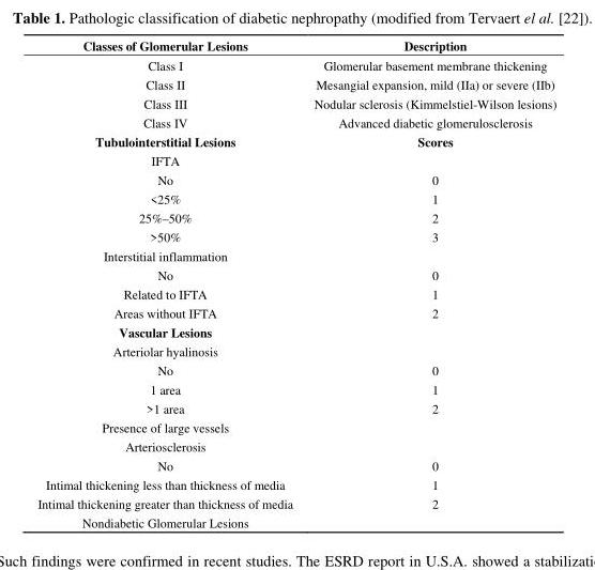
<table><thead><tr><td>Classes of Glomerular Lesions</td><td>Description</td></tr></thead><tbody><tr><td>Class I</td><td>Glomerular basement membrane thickening</td></tr><tr><td>Class II</td><td>Mesangial expansion, mild (IIa) or severe (IIb)</td></tr><tr><td>Class III</td><td>Nodular sclerosis (Kimmelstiel-Wilson lesions)</td></tr><tr><td>Class IV</td><td>Advanced diabetic glomerulosclerosis</td></tr><tr><td>Tubulointerstitial Lesions</td><td>Scores</td></tr><tr><td colspan="2">IFTA</td></tr><tr><td>No</td><td>0</td></tr><tr><td>&lt;25%</td><td>1</td></tr><tr><td>25%–50%</td><td>2</td></tr><tr><td>&gt;50%</td><td>3</td></tr><tr><td colspan="2">Interstitial inflammation</td></tr><tr><td>No</td><td>0</td></tr><tr><td>Related to IFTA</td><td>1</td></tr><tr><td>Areas without IFTA</td><td>2</td></tr><tr><td colspan="2">Vascular Lesions</td></tr><tr><td colspan="2">Arteriolar hyalinosis</td></tr><tr><td>No</td><td>0</td></tr><tr><td>1 area</td><td>1</td></tr><tr><td>&gt;1 area</td><td>2</td></tr><tr><td colspan="2">Presence of large vessels</td></tr><tr><td colspan="2">Arteriosclerosis</td></tr><tr><td>No</td><td>0</td></tr><tr><td>Intimal thickening less than thickness of media</td><td>1</td></tr><tr><td>Intimal thickening greater than thickness of media</td><td>2</td></tr><tr><td>Nondiabetic Glomerular Lesions</td><td></td></tr></tbody></table>